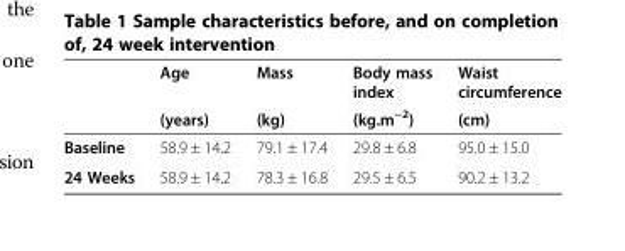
<table><thead><tr><td rowspan="2"></td><td rowspan="2">Age (years)</td><td rowspan="2">Mass (kg)</td><td rowspan="2">Body mass index (kg.m<sup>−2</sup>)</td><td rowspan="2">Waist circumference (cm)</td></tr><tr></tr></thead><tbody><tr><td>Baseline</td><td>58.9 ± 14.2</td><td>79.1 ± 17.4</td><td>29.8 ± 6.8</td><td>95.0 ± 15.0</td></tr><tr><td>24 Weeks</td><td>58.9 ± 14.2</td><td>78.3 ± 16.8</td><td>29.5 ± 6.5</td><td>90.2 ± 13.2</td></tr></tbody></table>